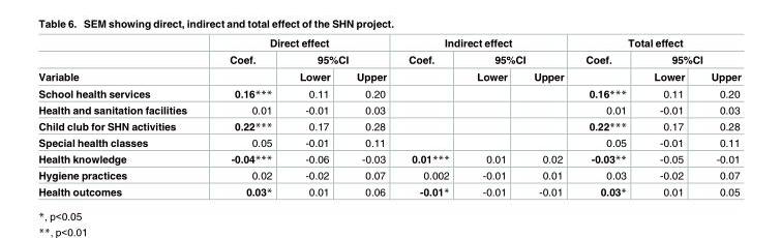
<table><thead><tr><td rowspan="3">Variable</td><td colspan="3">Direct effect</td><td colspan="3">Indirect effect</td><td colspan="3">Total effect</td></tr><tr><td rowspan="2">Coef.</td><td colspan="2">95%CI</td><td rowspan="2">Coef.</td><td colspan="2">95%CI</td><td rowspan="2">Coef.</td><td colspan="2">95%CI</td></tr><tr><td>Lower</td><td>Upper</td><td>Lower</td><td>Upper</td><td>Lower</td><td>Upper</td></tr></thead><tbody><tr><td>School health services</td><td>0.16***</td><td>0.11</td><td>0.20</td><td></td><td></td><td></td><td>0.16***</td><td>0.11</td><td>0.20</td></tr><tr><td>Health and sanitation facilities</td><td>0.01</td><td>-0.01</td><td>0.03</td><td></td><td></td><td></td><td>0.01</td><td>-0.01</td><td>0.03</td></tr><tr><td>Child club for SHN activities</td><td>0.22***</td><td>0.17</td><td>0.28</td><td></td><td></td><td></td><td>0.22***</td><td>0.17</td><td>0.28</td></tr><tr><td>Special health classes</td><td>0.05</td><td>-0.01</td><td>0.11</td><td></td><td></td><td></td><td>0.05</td><td>-0.01</td><td>0.11</td></tr><tr><td>Health knowledge</td><td>-0.04***</td><td>-0.06</td><td>-0.03</td><td>0.01***</td><td>0.01</td><td>0.02</td><td>-0.03**</td><td>-0.05</td><td>-0.01</td></tr><tr><td>Hygiene practices</td><td>0.02</td><td>-0.02</td><td>0.07</td><td>0.002</td><td>-0.01</td><td>0.01</td><td>0.03</td><td>-0.02</td><td>0.07</td></tr><tr><td>Health outcomes</td><td>0.03*</td><td>0.01</td><td>0.06</td><td>-0.01*</td><td>-0.01</td><td>-0.01</td><td>0.03*</td><td>0.01</td><td>0.05</td></tr></tbody></table>